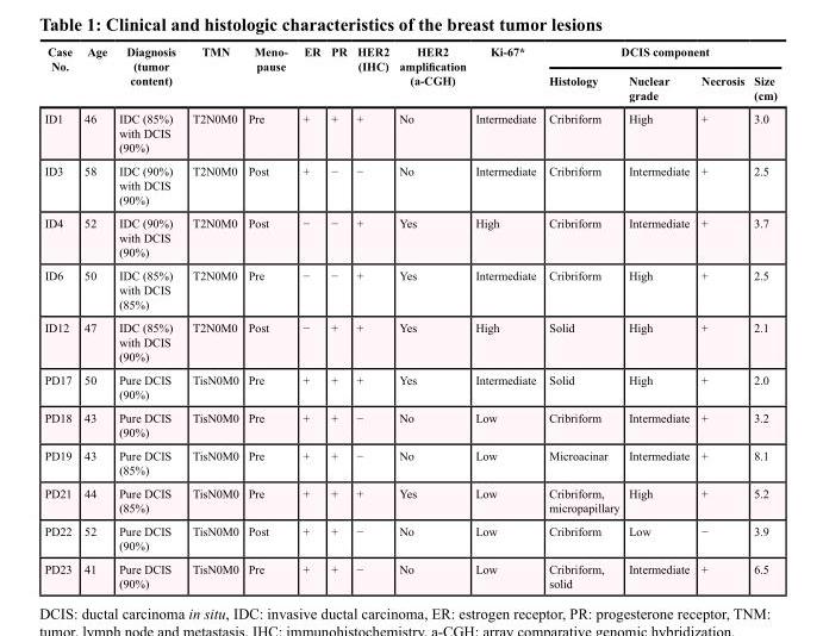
<table><thead><tr><td rowspan="2">Case No.</td><td rowspan="2">Age</td><td rowspan="2">Diagnosis (tumor content)</td><td rowspan="2">TMN</td><td rowspan="2">Meno- pause</td><td rowspan="2">ER</td><td rowspan="2">PR</td><td rowspan="2">HER2 (IHC)</td><td rowspan="2">HER2 amplification (a-CGH)</td><td rowspan="2">Ki-67*</td><td colspan="4">DCIS component</td></tr><tr><td>Histology</td><td>Nuclear grade</td><td>Necrosis</td><td>Size (cm)</td></tr></thead><tbody><tr><td>ID1</td><td>46</td><td>IDC (85%) with DCIS (90%)</td><td>T2N0M0</td><td>Pre</td><td>+</td><td>+</td><td>+</td><td>No</td><td>Intermediate</td><td>Cribriform</td><td>High</td><td>+</td><td>3.0</td></tr><tr><td>ID3</td><td>58</td><td>IDC (90%) with DCIS (90%)</td><td>T2N0M0</td><td>Post</td><td>+</td><td>−</td><td>−</td><td>No</td><td>Intermediate</td><td>Cribriform</td><td>Intermediate</td><td>+</td><td>2.5</td></tr><tr><td>ID4</td><td>52</td><td>IDC (90%) with DCIS (90%)</td><td>T2N0M0</td><td>Post</td><td>−</td><td>−</td><td>+</td><td>Yes</td><td>High</td><td>Cribriform</td><td>Intermediate</td><td>+</td><td>3.7</td></tr><tr><td>ID6</td><td>50</td><td>IDC (85%) with DCIS (85%)</td><td>T2N0M0</td><td>Pre</td><td>−</td><td>−</td><td>+</td><td>Yes</td><td>Intermediate</td><td>Cribriform</td><td>High</td><td>+</td><td>2.5</td></tr><tr><td>ID12</td><td>47</td><td>IDC (85%) with DCIS (90%)</td><td>T2N0M0</td><td>Post</td><td>−</td><td>+</td><td>+</td><td>Yes</td><td>High</td><td>Solid</td><td>High</td><td>+</td><td>2.1</td></tr><tr><td>PD17</td><td>50</td><td>Pure DCIS (90%)</td><td>TisN0M0</td><td>Pre</td><td>+</td><td>+</td><td>+</td><td>Yes</td><td>Intermediate</td><td>Solid</td><td>High</td><td>+</td><td>2.0</td></tr><tr><td>PD18</td><td>43</td><td>Pure DCIS (90%)</td><td>TisN0M0</td><td>Pre</td><td>+</td><td>+</td><td>−</td><td>No</td><td>Low</td><td>Cribriform</td><td>Intermediate</td><td>+</td><td>3.2</td></tr><tr><td>PD19</td><td>43</td><td>Pure DCIS (85%)</td><td>TisN0M0</td><td>Pre</td><td>+</td><td>+</td><td>−</td><td>No</td><td>Low</td><td>Microacinar</td><td>Intermediate</td><td>+</td><td>8.1</td></tr><tr><td>PD21</td><td>44</td><td>Pure DCIS (85%)</td><td>TisN0M0</td><td>Pre</td><td>+</td><td>+</td><td>+</td><td>Yes</td><td>Low</td><td>Cribriform, micropapillary</td><td>High</td><td>+</td><td>5.2</td></tr><tr><td>PD22</td><td>52</td><td>Pure DCIS (90%)</td><td>TisN0M0</td><td>Post</td><td>+</td><td>+</td><td>−</td><td>No</td><td>Low</td><td>Cribriform</td><td>Low</td><td>−</td><td>3.9</td></tr><tr><td>PD23</td><td>41</td><td>Pure DCIS (90%)</td><td>TisN0M0</td><td>Pre</td><td>+</td><td>+</td><td>−</td><td>No</td><td>Low</td><td>Cribriform, solid</td><td>Intermediate</td><td>+</td><td>6.5</td></tr></tbody></table>